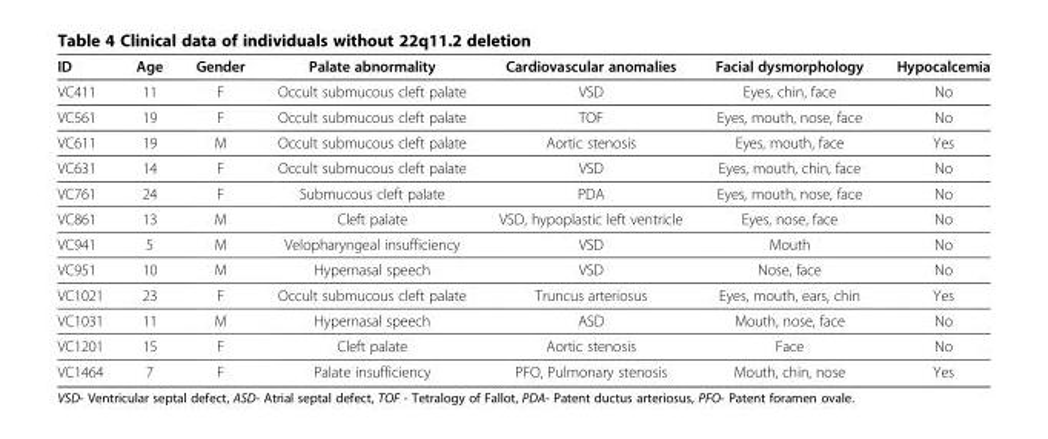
<table><thead><tr><td>ID</td><td>Age</td><td>Gender</td><td>Palate abnormality</td><td>Cardiovascular anomalies</td><td>Facial dysmorphology</td><td>Hypocalcemia</td></tr></thead><tbody><tr><td>VC411</td><td>11</td><td>F</td><td>Occult submucous cleft palate</td><td>VSD</td><td>Eyes, chin, face</td><td>No</td></tr><tr><td>VC561</td><td>19</td><td>F</td><td>Occult submucous cleft palate</td><td>TOF</td><td>Eyes, mouth, nose, face</td><td>No</td></tr><tr><td>VC611</td><td>19</td><td>M</td><td>Occult submucous cleft palate</td><td>Aortic stenosis</td><td>Eyes, mouth, face</td><td>Yes</td></tr><tr><td>VC631</td><td>14</td><td>F</td><td>Occult submucous cleft palate</td><td>VSD</td><td>Eyes, mouth, chin, face</td><td>No</td></tr><tr><td>VC761</td><td>24</td><td>F</td><td>Submucous cleft palate</td><td>PDA</td><td>Eyes, mouth, nose, face</td><td>No</td></tr><tr><td>VC861</td><td>13</td><td>M</td><td>Cleft palate</td><td>VSD, hypoplastic left ventricle</td><td>Eyes, nose, face</td><td>No</td></tr><tr><td>VC941</td><td>5</td><td>M</td><td>Velopharyngeal insufficiency</td><td>VSD</td><td>Mouth</td><td>No</td></tr><tr><td>VC951</td><td>10</td><td>M</td><td>Hypernasal speech</td><td>VSD</td><td>Nose, face</td><td>No</td></tr><tr><td>VC1021</td><td>23</td><td>F</td><td>Occult submucous cleft palate</td><td>Truncus arteriosus</td><td>Eyes, mouth, ears, chin</td><td>Yes</td></tr><tr><td>VC1031</td><td>11</td><td>M</td><td>Hypernasal speech</td><td>ASD</td><td>Mouth, nose, face</td><td>No</td></tr><tr><td>VC1201</td><td>15</td><td>F</td><td>Cleft palate</td><td>Aortic stenosis</td><td>Face</td><td>No</td></tr><tr><td>VC1464</td><td>7</td><td>F</td><td>Palate insufficiency</td><td>PFO, Pulmonary stenosis</td><td>Mouth, chin, nose</td><td>Yes</td></tr></tbody></table>